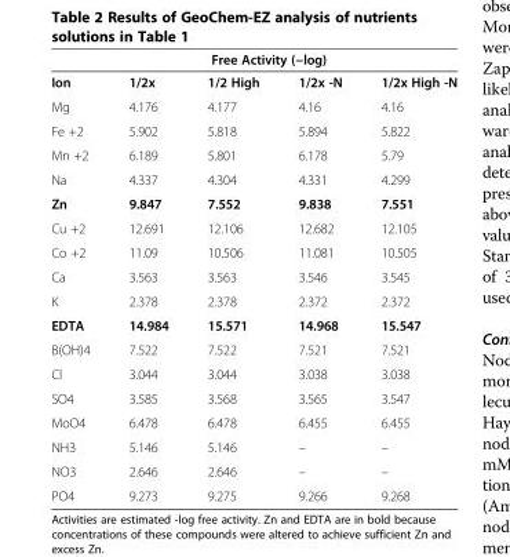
<table><thead><tr><td rowspan="2">Ion</td><td colspan="4">Free Activity (−log)</td></tr><tr><td>1/2x</td><td>1/2 High</td><td>1/2x -N</td><td>1/2x High -N</td></tr></thead><tbody><tr><td>Mg</td><td>4.176</td><td>4.177</td><td>4.16</td><td>4.16</td></tr><tr><td>Fe +2</td><td>5.902</td><td>5.818</td><td>5.894</td><td>5.822</td></tr><tr><td>Mn +2</td><td>6.189</td><td>5.801</td><td>6.178</td><td>5.79</td></tr><tr><td>Na</td><td>4.337</td><td>4.304</td><td>4.331</td><td>4.299</td></tr><tr><td>Zn</td><td>9.847</td><td>7.552</td><td>9.838</td><td>7.551</td></tr><tr><td>Cu +2</td><td>12.691</td><td>12.106</td><td>12.682</td><td>12.105</td></tr><tr><td>Co +2</td><td>11.09</td><td>10.506</td><td>11.081</td><td>10.505</td></tr><tr><td>Ca</td><td>3.563</td><td>3.563</td><td>3.546</td><td>3.545</td></tr><tr><td>K</td><td>2.378</td><td>2.378</td><td>2.372</td><td>2.372</td></tr><tr><td>EDTA</td><td>14.984</td><td>15.571</td><td>14.968</td><td>15.547</td></tr><tr><td>B(OH)4</td><td>7.522</td><td>7.522</td><td>7.521</td><td>7.521</td></tr><tr><td>Cl</td><td>3.044</td><td>3.044</td><td>3.038</td><td>3.038</td></tr><tr><td>SO4</td><td>3.585</td><td>3.568</td><td>3.565</td><td>3.547</td></tr><tr><td>MoO4</td><td>6.478</td><td>6.478</td><td>6.455</td><td>6.455</td></tr><tr><td>NH3</td><td>5.146</td><td>5.146</td><td>–</td><td>–</td></tr><tr><td>NO3</td><td>2.646</td><td>2.646</td><td>–</td><td>–</td></tr><tr><td>PO4</td><td>9.273</td><td>9.275</td><td>9.266</td><td>9.268</td></tr></tbody></table>